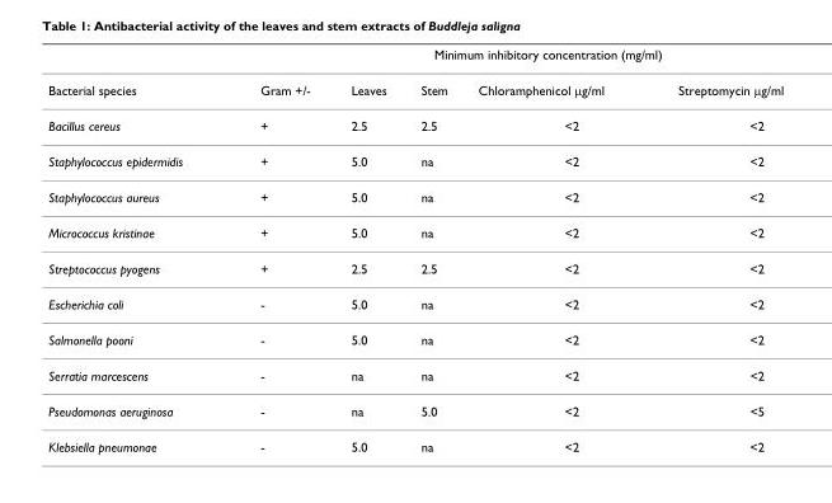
<table><thead><tr><td rowspan="2">Bacterial species</td><td colspan="5">Minimum inhibitory concentration (mg/ml)</td></tr><tr><td>Gram +/-</td><td>Leaves</td><td>Stem</td><td>Chloramphenicol μg/ml</td><td>Streptomycin μg/ml</td></tr></thead><tbody><tr><td>Bacillus cereus</td><td>+</td><td>2.5</td><td>2.5</td><td>&lt;2</td><td>&lt;2</td></tr><tr><td>Staphylococcus epidermidis</td><td>+</td><td>5.0</td><td>na</td><td>&lt;2</td><td>&lt;2</td></tr><tr><td>Staphylococcus aureus</td><td>+</td><td>5.0</td><td>na</td><td>&lt;2</td><td>&lt;2</td></tr><tr><td>Micrococcus kristinae</td><td>+</td><td>5.0</td><td>na</td><td>&lt;2</td><td>&lt;2</td></tr><tr><td>Streptococcus pyogens</td><td>+</td><td>2.5</td><td>2.5</td><td>&lt;2</td><td>&lt;2</td></tr><tr><td>Escherichia coli</td><td>-</td><td>5.0</td><td>na</td><td>&lt;2</td><td>&lt;2</td></tr><tr><td>Salmonella pooni</td><td>-</td><td>5.0</td><td>na</td><td>&lt;2</td><td>&lt;2</td></tr><tr><td>Serratia marcescens</td><td>-</td><td>na</td><td>na</td><td>&lt;2</td><td>&lt;2</td></tr><tr><td>Pseudomonas aeruginosa</td><td>-</td><td>na</td><td>5.0</td><td>&lt;2</td><td>&lt;5</td></tr><tr><td>Klebsiella pneumonae</td><td>-</td><td>5.0</td><td>na</td><td>&lt;2</td><td>&lt;2</td></tr></tbody></table>